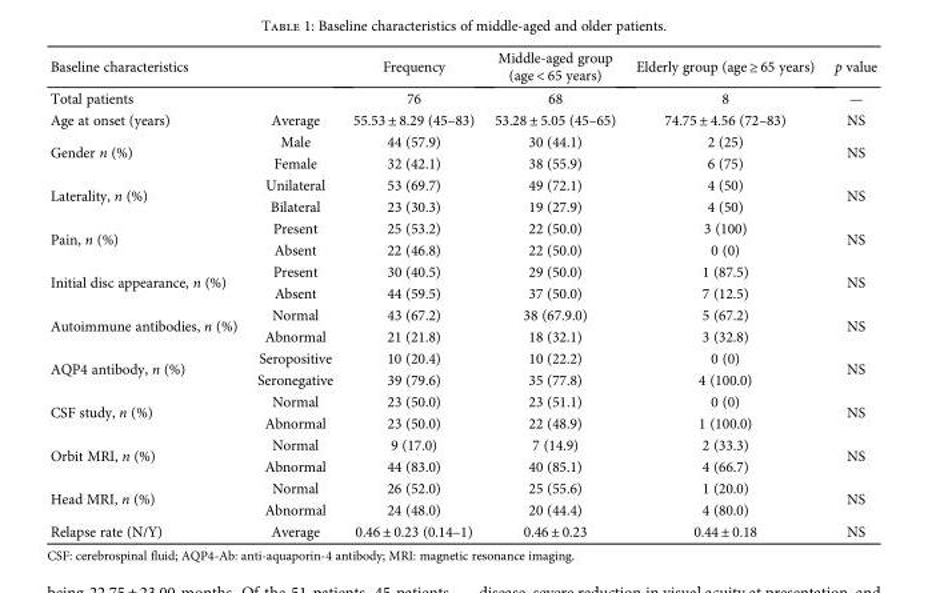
<table><thead><tr><td rowspan="2" colspan="2">Baseline characteristics Total patients</td><td rowspan="3">Frequency 76 55.53 ± 8.29 (45–83)</td><td rowspan="3">Middle-aged group (age &lt; 65 years) 68 53.28 ± 5.05 (45–65)</td><td rowspan="3">Elderly group (age ≥ 65 years) 8 74.75 ± 4.56 (72–83)</td><td rowspan="3">p value — NS</td></tr><tr></tr><tr><td>Age at onset (years)</td><td>Average</td></tr></thead><tbody><tr><td rowspan="2">Gender n (%)</td><td>Male</td><td>44 (57.9)</td><td>30 (44.1)</td><td>2 (25)</td><td rowspan="2">NS</td></tr><tr><td>Female</td><td>32 (42.1)</td><td>38 (55.9)</td><td>6 (75)</td></tr><tr><td rowspan="2">Laterality, n (%)</td><td>Unilateral</td><td>53 (69.7)</td><td>49 (72.1)</td><td>4 (50)</td><td rowspan="2">NS</td></tr><tr><td>Bilateral</td><td>23 (30.3)</td><td>19 (27.9)</td><td>4 (50)</td></tr><tr><td rowspan="2">Pain, n (%)</td><td>Present</td><td>25 (53.2)</td><td>22 (50.0)</td><td>3 (100)</td><td rowspan="2">NS</td></tr><tr><td>Absent</td><td>22 (46.8)</td><td>22 (50.0)</td><td>0 (0)</td></tr><tr><td rowspan="2">Initial disc appearance, n (%)</td><td>Present</td><td>30 (40.5)</td><td>29 (50.0)</td><td>1 (87.5)</td><td rowspan="2">NS</td></tr><tr><td>Absent</td><td>44 (59.5)</td><td>37 (50.0)</td><td>7 (12.5)</td></tr><tr><td rowspan="2">Autoimmune antibodies, n (%)</td><td>Normal</td><td>43 (67.2)</td><td>38 (67.9.0)</td><td>5 (67.2)</td><td rowspan="2">NS</td></tr><tr><td>Abnormal</td><td>21 (21.8)</td><td>18 (32.1)</td><td>3 (32.8)</td></tr><tr><td rowspan="2">AQP4 antibody, n (%)</td><td>Seropositive</td><td>10 (20.4)</td><td>10 (22.2)</td><td>0 (0)</td><td rowspan="2">NS</td></tr><tr><td>Seronegative</td><td>39 (79.6)</td><td>35 (77.8)</td><td>4 (100.0)</td></tr><tr><td rowspan="2">CSF study, n (%)</td><td>Normal</td><td>23 (50.0)</td><td>23 (51.1)</td><td>0 (0)</td><td rowspan="2">NS</td></tr><tr><td>Abnormal</td><td>23 (50.0)</td><td>22 (48.9)</td><td>1 (100.0)</td></tr><tr><td rowspan="2">Orbit MRI, n (%)</td><td>Normal</td><td>9 (17.0)</td><td>7 (14.9)</td><td>2 (33.3)</td><td rowspan="2">NS</td></tr><tr><td>Abnormal</td><td>44 (83.0)</td><td>40 (85.1)</td><td>4 (66.7)</td></tr><tr><td rowspan="2">Head MRI, n (%)</td><td>Normal</td><td>26 (52.0)</td><td>25 (55.6)</td><td>1 (20.0)</td><td rowspan="2">NS</td></tr><tr><td>Abnormal</td><td>24 (48.0)</td><td>20 (44.4)</td><td>4 (80.0)</td></tr><tr><td>Relapse rate (N/Y)</td><td>Average</td><td>0.46 ± 0.23 (0.14–1)</td><td>0.46 ± 0.23</td><td>0.44 ± 0.18</td><td>NS</td></tr></tbody></table>